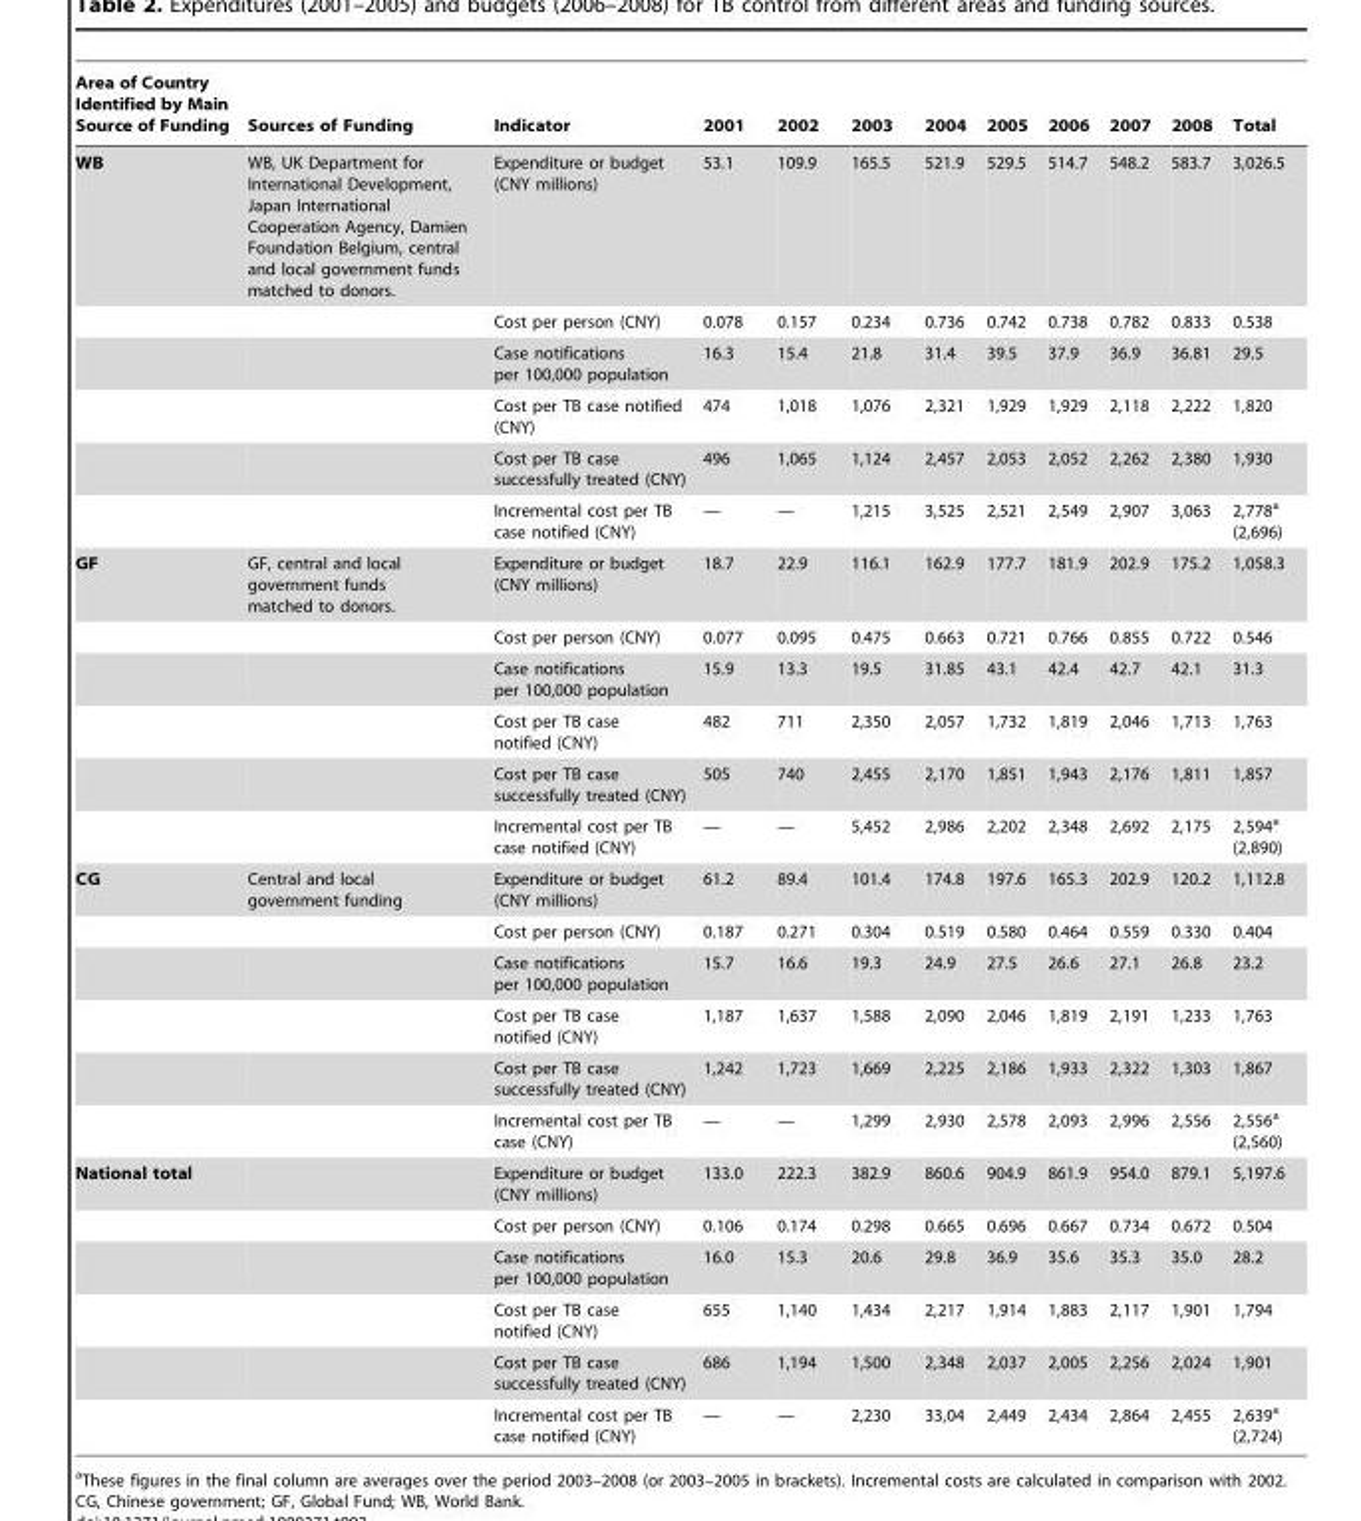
<table><thead><tr><td>Area of Country Identified by Main Source of Funding</td><td>Sources of Funding</td><td>Indicator</td><td>2001</td><td>2002</td><td>2003</td><td>2004</td><td>2005</td><td>2006</td><td>2007</td><td>2008</td><td>Total</td></tr></thead><tbody><tr><td rowspan="6">WB</td><td>WB, UK Department for International Development, Japan International Cooperation Agency, Damien Foundation Belgium, central and local government funds matched to donors.</td><td>Expenditure or budget (CNY millions)</td><td>53.1</td><td>109.9</td><td>165.5</td><td>521.9</td><td>529.5</td><td>514.7</td><td>548.2</td><td>583.7</td><td>3,026.5</td></tr><tr><td></td><td>Cost per person (CNY)</td><td>0.078</td><td>0.157</td><td>0.234</td><td>0.736</td><td>0.742</td><td>0.738</td><td>0.782</td><td>0.833</td><td>0.538</td></tr><tr><td></td><td>Case notifications per 100,000 population</td><td>16.3</td><td>15.4</td><td>21.8</td><td>31.4</td><td>39.5</td><td>37.9</td><td>36.9</td><td>36.81</td><td>29.5</td></tr><tr><td></td><td>Cost per TB case notified (CNY)</td><td>474</td><td>1,018</td><td>1,076</td><td>2,321</td><td>1,929</td><td>1,929</td><td>2,118</td><td>2,222</td><td>1,820</td></tr><tr><td></td><td>Cost per TB case successfully treated (CNY)</td><td>496</td><td>1,065</td><td>1,124</td><td>2,457</td><td>2,053</td><td>2,052</td><td>2,262</td><td>2,380</td><td>1,930</td></tr><tr><td></td><td>Incremental cost per TB case notified (CNY)</td><td>—</td><td>—</td><td>1,215</td><td>3,525</td><td>2,521</td><td>2,549</td><td>2,907</td><td>3,063</td><td>2,778<sup>a</sup> (2,696)</td></tr><tr><td rowspan="6">GF</td><td>GF, central and local government funds matched to donors.</td><td>Expenditure or budget (CNY millions)</td><td>18.7</td><td>22.9</td><td>116.1</td><td>162.9</td><td>177.7</td><td>181.9</td><td>202.9</td><td>175.2</td><td>1,058.3</td></tr><tr><td></td><td>Cost per person (CNY)</td><td>0.077</td><td>0.095</td><td>0.475</td><td>0.663</td><td>0.721</td><td>0.766</td><td>0.855</td><td>0.722</td><td>0.546</td></tr><tr><td></td><td>Case notifications per 100,000 population</td><td>15.9</td><td>13.3</td><td>19.5</td><td>31.85</td><td>43.1</td><td>42.4</td><td>42.7</td><td>42.1</td><td>31.3</td></tr><tr><td></td><td>Cost per TB case notified (CNY)</td><td>482</td><td>711</td><td>2,350</td><td>2,057</td><td>1,732</td><td>1,819</td><td>2,046</td><td>1,713</td><td>1,763</td></tr><tr><td></td><td>Cost per TB case successfully treated (CNY)</td><td>505</td><td>740</td><td>2,455</td><td>2,170</td><td>1,851</td><td>1,943</td><td>2,176</td><td>1,811</td><td>1,857</td></tr><tr><td></td><td>Incremental cost per TB case notified (CNY)</td><td>—</td><td>—</td><td>5,452</td><td>2,986</td><td>2,202</td><td>2,348</td><td>2,692</td><td>2,175</td><td>2,594<sup>a</sup> (2,890)</td></tr><tr><td rowspan="6">CG</td><td>Central and local government funding</td><td>Expenditure or budget (CNY millions)</td><td>61.2</td><td>89.4</td><td>101.4</td><td>174.8</td><td>197.6</td><td>165.3</td><td>202.9</td><td>120.2</td><td>1,112.8</td></tr><tr><td></td><td>Cost per person (CNY)</td><td>0.187</td><td>0.271</td><td>0.304</td><td>0.519</td><td>0.580</td><td>0.464</td><td>0.559</td><td>0.330</td><td>0.404</td></tr><tr><td></td><td>Case notifications per 100,000 population</td><td>15.7</td><td>16.6</td><td>19.3</td><td>24.9</td><td>27.5</td><td>26.6</td><td>27.1</td><td>26.8</td><td>23.2</td></tr><tr><td></td><td>Cost per TB case notified (CNY)</td><td>1,187</td><td>1,637</td><td>1,588</td><td>2,090</td><td>2,046</td><td>1,819</td><td>2,191</td><td>1,233</td><td>1,763</td></tr><tr><td></td><td>Cost per TB case successfully treated (CNY)</td><td>1,242</td><td>1,723</td><td>1,669</td><td>2,225</td><td>2,186</td><td>1,933</td><td>2,322</td><td>1,303</td><td>1,867</td></tr><tr><td></td><td>Incremental cost per TB case (CNY)</td><td>—</td><td>—</td><td>1,299</td><td>2,930</td><td>2,578</td><td>2,093</td><td>2,996</td><td>2,556</td><td>2,556<sup>a</sup> (2,560)</td></tr><tr><td rowspan="6">National total</td><td></td><td>Expenditure or budget (CNY millions)</td><td>133.0</td><td>222.3</td><td>382.9</td><td>860.6</td><td>904.9</td><td>861.9</td><td>954.0</td><td>879.1</td><td>5,197.6</td></tr><tr><td></td><td>Cost per person (CNY)</td><td>0.106</td><td>0.174</td><td>0.298</td><td>0.665</td><td>0.696</td><td>0.667</td><td>0.734</td><td>0.672</td><td>0.504</td></tr><tr><td></td><td>Case notifications per 100,000 population</td><td>16.0</td><td>15.3</td><td>20.6</td><td>29.8</td><td>36.9</td><td>35.6</td><td>35.3</td><td>35.0</td><td>28.2</td></tr><tr><td></td><td>Cost per TB case notified (CNY)</td><td>655</td><td>1,140</td><td>1,434</td><td>2,217</td><td>1,914</td><td>1,883</td><td>2,117</td><td>1,901</td><td>1,794</td></tr><tr><td></td><td>Cost per TB case successfully treated (CNY)</td><td>686</td><td>1,194</td><td>1,500</td><td>2,348</td><td>2,037</td><td>2,005</td><td>2,256</td><td>2,024</td><td>1,901</td></tr><tr><td></td><td>Incremental cost per TB case notified (CNY)</td><td>—</td><td>—</td><td>2,230</td><td>33,04</td><td>2,449</td><td>2,434</td><td>2,864</td><td>2,455</td><td>2,639<sup>a</sup> (2,724)</td></tr></tbody></table>